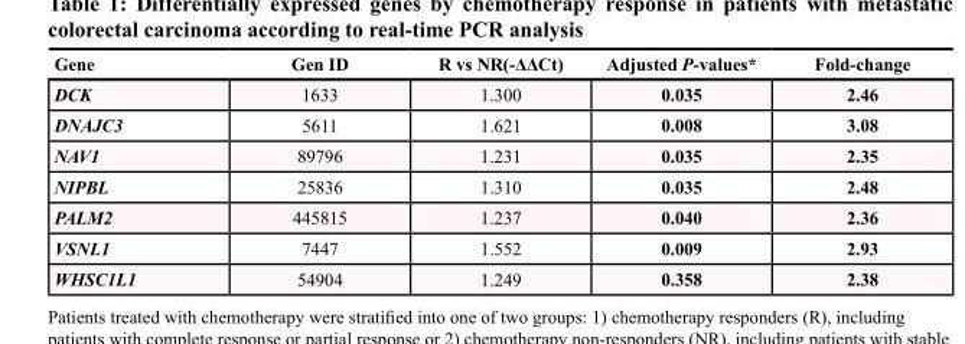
<table><thead><tr><td>Gene</td><td>Gen ID</td><td>R vs NR(-ΔΔCt)</td><td>Adjusted P-values*</td><td>Fold-change</td></tr></thead><tbody><tr><td>DCK</td><td>1633</td><td>1.300</td><td>0.035</td><td>2.46</td></tr><tr><td>DNAJC3</td><td>5611</td><td>1.621</td><td>0.008</td><td>3.08</td></tr><tr><td>NAV1</td><td>89796</td><td>1.231</td><td>0.035</td><td>2.35</td></tr><tr><td>NIPBL</td><td>25836</td><td>1.310</td><td>0.035</td><td>2.48</td></tr><tr><td>PALM2</td><td>445815</td><td>1.237</td><td>0.040</td><td>2.36</td></tr><tr><td>VSNL1</td><td>7447</td><td>1.552</td><td>0.009</td><td>2.93</td></tr><tr><td>WHSC1L1</td><td>54904</td><td>1.249</td><td>0.358</td><td>2.38</td></tr></tbody></table>